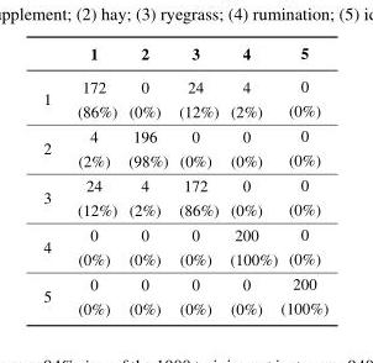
<table><thead><tr><td></td><td>1</td><td>2</td><td>3</td><td>4</td><td>5</td></tr></thead><tbody><tr><td rowspan="2">1</td><td>172</td><td>0</td><td>24</td><td>4</td><td>0</td></tr><tr><td>(86%)</td><td>(0%)</td><td>(12%)</td><td>(2%)</td><td>(0%)</td></tr><tr><td rowspan="2">2</td><td>4</td><td>196</td><td>0</td><td>0</td><td>0</td></tr><tr><td>(2%)</td><td>(98%)</td><td>(0%)</td><td>(0%)</td><td>(0%)</td></tr><tr><td rowspan="2">3</td><td>24</td><td>4</td><td>172</td><td>0</td><td>0</td></tr><tr><td>(12%)</td><td>(2%)</td><td>(86%)</td><td>(0%)</td><td>(0%)</td></tr><tr><td rowspan="2">4</td><td>0</td><td>0</td><td>0</td><td>200</td><td>0</td></tr><tr><td>(0%)</td><td>(0%)</td><td>(0%)</td><td>(100%)</td><td>(0%)</td></tr><tr><td rowspan="2">5</td><td>0</td><td>0</td><td>0</td><td>0</td><td>200</td></tr><tr><td>(0%)</td><td>(0%)</td><td>(0%)</td><td>(0%)</td><td>(100%)</td></tr></tbody></table>